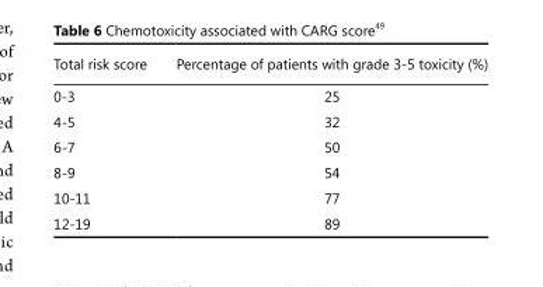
<table><thead><tr><td>Total risk score</td><td>Percentage of patients with grade 3-5 toxicity (%)</td></tr></thead><tbody><tr><td>0-3</td><td>25</td></tr><tr><td>4-5</td><td>32</td></tr><tr><td>6-7</td><td>50</td></tr><tr><td>8-9</td><td>54</td></tr><tr><td>10-11</td><td>77</td></tr><tr><td>12-19</td><td>89</td></tr></tbody></table>